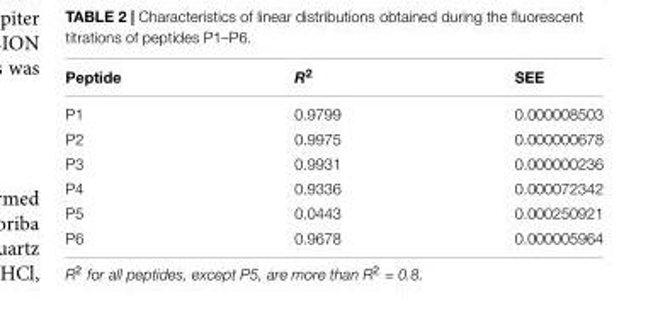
<table><thead><tr><td>Peptide</td><td>R<sup>2</sup></td><td>SEE</td></tr></thead><tbody><tr><td>P1</td><td>0.9799</td><td>0.000008503</td></tr><tr><td>P2</td><td>0.9975</td><td>0.000000678</td></tr><tr><td>P3</td><td>0.9931</td><td>0.000000236</td></tr><tr><td>P4</td><td>0.9336</td><td>0.000072342</td></tr><tr><td>P5</td><td>0.0443</td><td>0.000250921</td></tr><tr><td>P6</td><td>0.9678</td><td>0.000005964</td></tr></tbody></table>